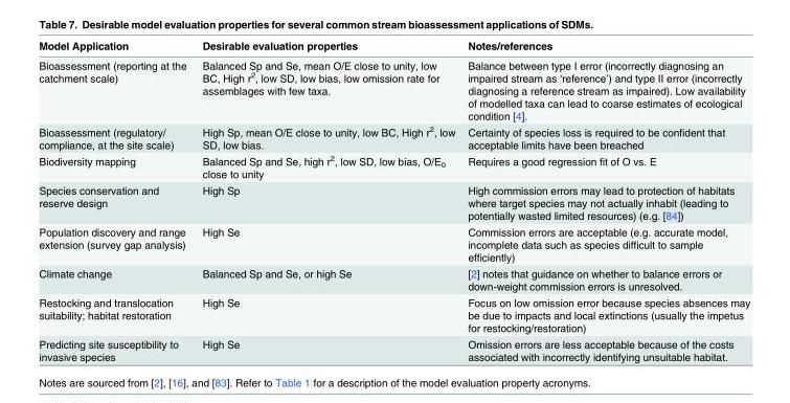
<table><thead><tr><td>Model Application</td><td>Desirable evaluation properties</td><td>Notes/references</td></tr></thead><tbody><tr><td>Bioassessment (reporting at the catchment scale)</td><td>Balanced Sp and Se, mean O/E close to unity, low BC, High r<sup>2</sup>, low SD, low bias, low omission rate for assemblages with few taxa.</td><td>Balance between type I error (incorrectly diagnosing an impaired stream as ‘reference’) and type II error (incorrectly diagnosing a reference stream as impaired). Low availability of modelled taxa can lead to coarse estimates of ecological condition [4].</td></tr><tr><td>Bioassessment (regulatory/ compliance, at the site scale)</td><td>High Sp, mean O/E close to unity, low BC, High r<sup>2</sup>, low SD, low bias.</td><td>Certainty of species loss is required to be confident that acceptable limits have been breached</td></tr><tr><td>Biodiversity mapping</td><td>Balanced Sp and Se, high r<sup>2</sup>, low SD, low bias, O/E<sub>0</sub> close to unity</td><td>Requires a good regression fit of O vs. E</td></tr><tr><td>Species conservation and reserve design</td><td>High Sp</td><td>High commission errors may lead to protection of habitats where target species may not actually inhabit (leading to potentially wasted limited resources) (e.g. [84])</td></tr><tr><td>Population discovery and range extension (survey gap analysis)</td><td>High Se</td><td>Commission errors are acceptable (e.g. accurate model, incomplete data such as species difficult to sample efficiently)</td></tr><tr><td>Climate change</td><td>Balanced Sp and Se, or high Se</td><td>[2] notes that guidance on whether to balance errors or down-weight commission errors is unresolved.</td></tr><tr><td>Restocking and translocation suitability; habitat restoration</td><td>High Se</td><td>Focus on low omission error because species absences may be due to impacts and local extinctions (usually the impetus for restocking/restoration)</td></tr><tr><td>Predicting site susceptibility to invasive species</td><td>High Se</td><td>Omission errors are less acceptable because of the costs associated with incorrectly identifying unsuitable habitat.</td></tr></tbody></table>